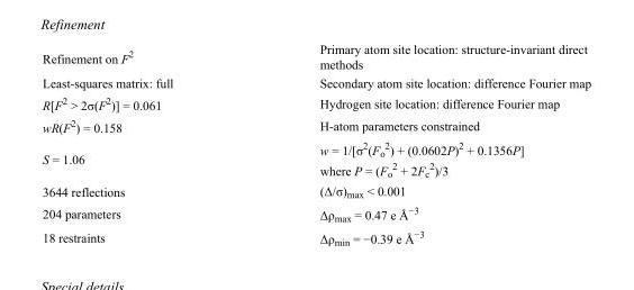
<table><tbody><tr><td>Refinement on F<sup>2</sup></td><td>Primary atom site location: structure-invariant direct methods</td></tr><tr><td>Least-squares matrix: full</td><td>Secondary atom site location: difference Fourier map</td></tr><tr><td>R[F<sup>2</sup> &gt; 2σ(F<sup>2</sup>)] = 0.061</td><td>Hydrogen site location: difference Fourier map</td></tr><tr><td>wR(F<sup>2</sup>) = 0.158</td><td>H-atom parameters constrained</td></tr><tr><td>S = 1.06</td><td>w = 1/[σ<sup>2</sup>(F<sub>o</sub> <sup>2</sup>) + (0.0602P)<sup>2</sup> + 0.1356P] where P = (F<sub>o</sub> <sup>2</sup> + 2F<sub>c</sub> <sup>2</sup>)/3</td></tr><tr><td>3644 reflections</td><td>(Δ/σ)<sub>max</sub> &lt; 0.001</td></tr><tr><td>204 parameters</td><td>Δρ<sub>max</sub> = 0.47 e Å<sup>−3</sup></td></tr><tr><td>18 restraints</td><td>Δρ<sub>min</sub> = −0.39 e Å<sup>−3</sup></td></tr></tbody></table>